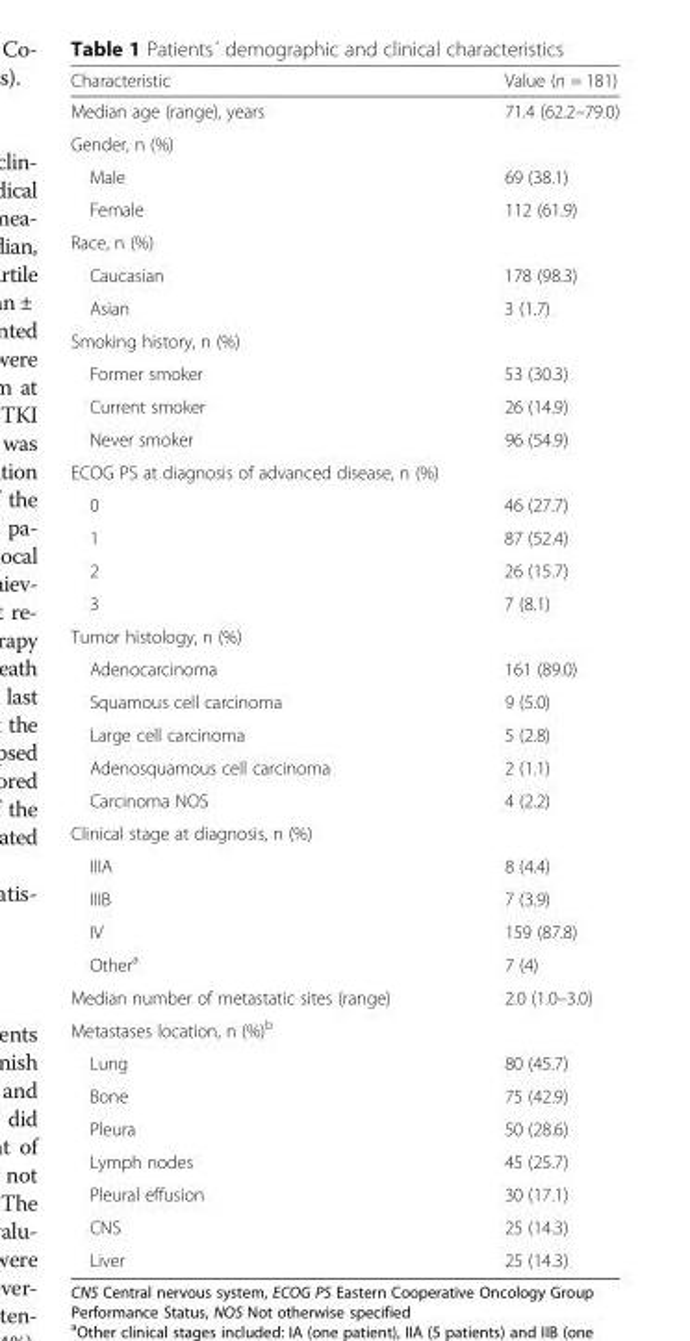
<table><thead><tr><td>Characteristic</td><td>Value (n = 181)</td></tr></thead><tbody><tr><td>Median age (range), years</td><td>71.4 (62.2–79.0)</td></tr><tr><td colspan="2">Gender, n (%)</td></tr><tr><td>Male</td><td>69 (38.1)</td></tr><tr><td>Female</td><td>112 (61.9)</td></tr><tr><td colspan="2">Race, n (%)</td></tr><tr><td>Caucasian</td><td>178 (98.3)</td></tr><tr><td>Asian</td><td>3 (1.7)</td></tr><tr><td colspan="2">Smoking history, n (%)</td></tr><tr><td>Former smoker</td><td>53 (30.3)</td></tr><tr><td>Current smoker</td><td>26 (14.9)</td></tr><tr><td>Never smoker</td><td>96 (54.9)</td></tr><tr><td colspan="2">ECOG PS at diagnosis of advanced disease, n (%)</td></tr><tr><td>0</td><td>46 (27.7)</td></tr><tr><td>1</td><td>87 (52.4)</td></tr><tr><td>2</td><td>26 (15.7)</td></tr><tr><td>3</td><td>7 (8.1)</td></tr><tr><td colspan="2">Tumor histology, n (%)</td></tr><tr><td>Adenocarcinoma</td><td>161 (89.0)</td></tr><tr><td>Squamous cell carcinoma</td><td>9 (5.0)</td></tr><tr><td>Large cell carcinoma</td><td>5 (2.8)</td></tr><tr><td>Adenosquamous cell carcinoma</td><td>2 (1.1)</td></tr><tr><td>Carcinoma NOS</td><td>4 (2.2)</td></tr><tr><td colspan="2">Clinical stage at diagnosis, n (%)</td></tr><tr><td>IIIA</td><td>8 (4.4)</td></tr><tr><td>IIIB</td><td>7 (3.9)</td></tr><tr><td>IV</td><td>159 (87.8)</td></tr><tr><td>Other<sup>a</sup></td><td>7 (4)</td></tr><tr><td>Median number of metastatic sites (range)</td><td>2.0 (1.0–3.0)</td></tr><tr><td colspan="2">Metastases location, n (%)<sup>b</sup></td></tr><tr><td>Lung</td><td>80 (45.7)</td></tr><tr><td>Bone</td><td>75 (42.9)</td></tr><tr><td>Pleura</td><td>50 (28.6)</td></tr><tr><td>Lymph nodes</td><td>45 (25.7)</td></tr><tr><td>Pleural effusion</td><td>30 (17.1)</td></tr><tr><td>CNS</td><td>25 (14.3)</td></tr><tr><td>Liver</td><td>25 (14.3)</td></tr></tbody></table>